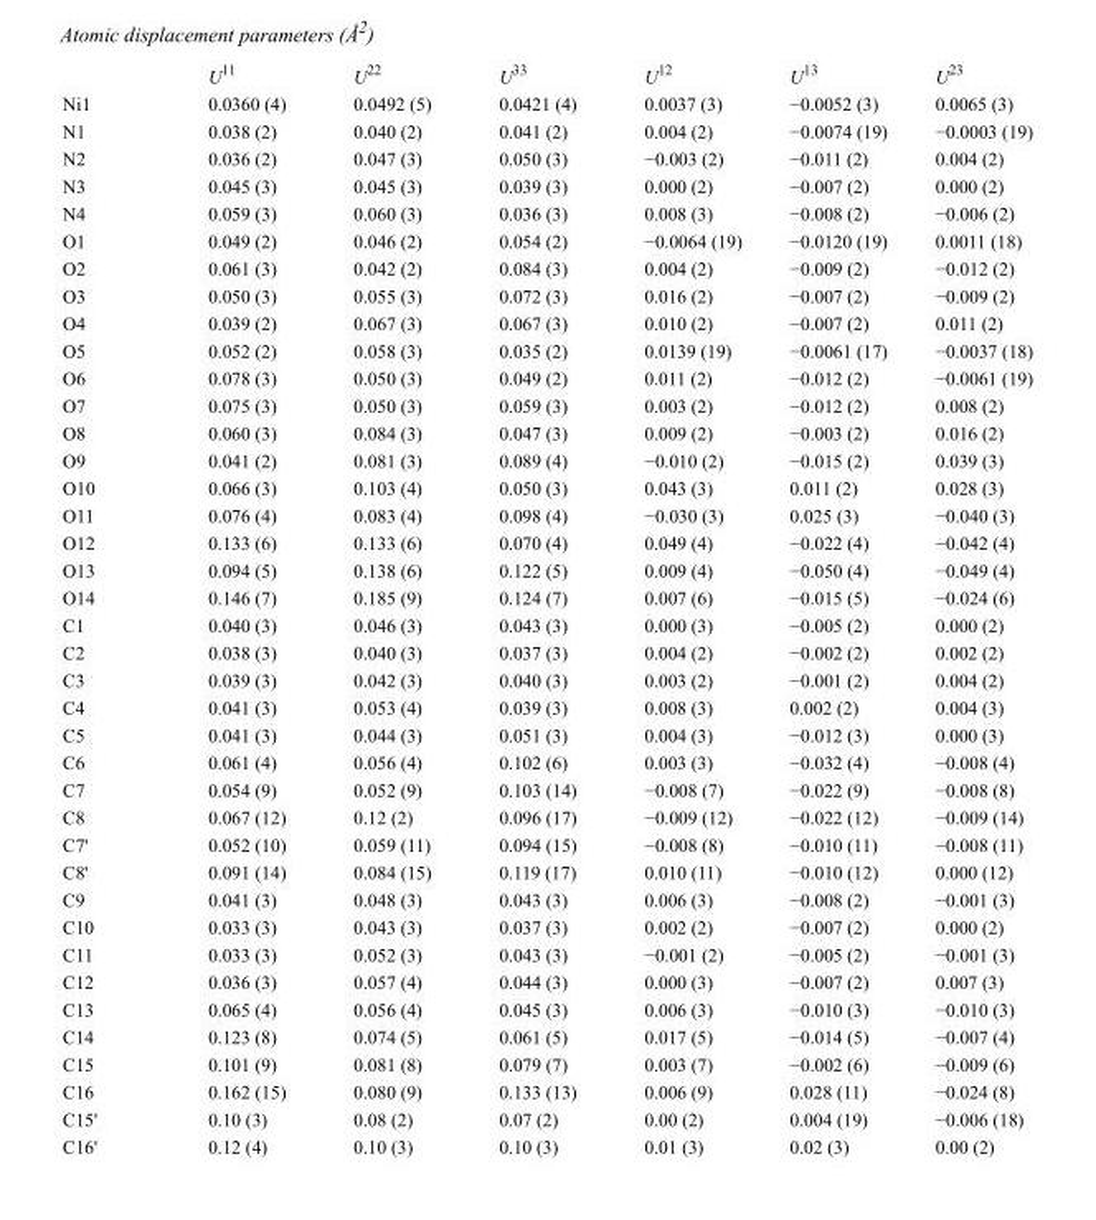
<table><thead><tr><td></td><td>U<sup>11</sup></td><td>U<sup>22</sup></td><td>U<sup>33</sup></td><td>U<sup>12</sup></td><td>U<sup>13</sup></td><td>U<sup>23</sup></td></tr></thead><tbody><tr><td>Ni1</td><td>0.0360 (4)</td><td>0.0492 (5)</td><td>0.0421 (4)</td><td>0.0037 (3)</td><td>−0.0052 (3)</td><td>0.0065 (3)</td></tr><tr><td>N1</td><td>0.038 (2)</td><td>0.040 (2)</td><td>0.041 (2)</td><td>0.004 (2)</td><td>−0.0074 (19)</td><td>−0.0003 (19)</td></tr><tr><td>N2</td><td>0.036 (2)</td><td>0.047 (3)</td><td>0.050 (3)</td><td>−0.003 (2)</td><td>−0.011 (2)</td><td>0.004 (2)</td></tr><tr><td>N3</td><td>0.045 (3)</td><td>0.045 (3)</td><td>0.039 (3)</td><td>0.000 (2)</td><td>−0.007 (2)</td><td>0.000 (2)</td></tr><tr><td>N4</td><td>0.059 (3)</td><td>0.060 (3)</td><td>0.036 (3)</td><td>0.008 (3)</td><td>−0.008 (2)</td><td>−0.006 (2)</td></tr><tr><td>O1</td><td>0.049 (2)</td><td>0.046 (2)</td><td>0.054 (2)</td><td>−0.0064 (19)</td><td>−0.0120 (19)</td><td>0.0011 (18)</td></tr><tr><td>O2</td><td>0.061 (3)</td><td>0.042 (2)</td><td>0.084 (3)</td><td>0.004 (2)</td><td>−0.009 (2)</td><td>−0.012 (2)</td></tr><tr><td>O3</td><td>0.050 (3)</td><td>0.055 (3)</td><td>0.072 (3)</td><td>0.016 (2)</td><td>−0.007 (2)</td><td>−0.009 (2)</td></tr><tr><td>O4</td><td>0.039 (2)</td><td>0.067 (3)</td><td>0.067 (3)</td><td>0.010 (2)</td><td>−0.007 (2)</td><td>0.011 (2)</td></tr><tr><td>O5</td><td>0.052 (2)</td><td>0.058 (3)</td><td>0.035 (2)</td><td>0.0139 (19)</td><td>−0.0061 (17)</td><td>−0.0037 (18)</td></tr><tr><td>O6</td><td>0.078 (3)</td><td>0.050 (3)</td><td>0.049 (2)</td><td>0.011 (2)</td><td>−0.012 (2)</td><td>−0.0061 (19)</td></tr><tr><td>O7</td><td>0.075 (3)</td><td>0.050 (3)</td><td>0.059 (3)</td><td>0.003 (2)</td><td>−0.012 (2)</td><td>0.008 (2)</td></tr><tr><td>O8</td><td>0.060 (3)</td><td>0.084 (3)</td><td>0.047 (3)</td><td>0.009 (2)</td><td>−0.003 (2)</td><td>0.016 (2)</td></tr><tr><td>O9</td><td>0.041 (2)</td><td>0.081 (3)</td><td>0.089 (4)</td><td>−0.010 (2)</td><td>−0.015 (2)</td><td>0.039 (3)</td></tr><tr><td>O10</td><td>0.066 (3)</td><td>0.103 (4)</td><td>0.050 (3)</td><td>0.043 (3)</td><td>0.011 (2)</td><td>0.028 (3)</td></tr><tr><td>O11</td><td>0.076 (4)</td><td>0.083 (4)</td><td>0.098 (4)</td><td>−0.030 (3)</td><td>0.025 (3)</td><td>−0.040 (3)</td></tr><tr><td>O12</td><td>0.133 (6)</td><td>0.133 (6)</td><td>0.070 (4)</td><td>0.049 (4)</td><td>−0.022 (4)</td><td>−0.042 (4)</td></tr><tr><td>O13</td><td>0.094 (5)</td><td>0.138 (6)</td><td>0.122 (5)</td><td>0.009 (4)</td><td>−0.050 (4)</td><td>−0.049 (4)</td></tr><tr><td>O14</td><td>0.146 (7)</td><td>0.185 (9)</td><td>0.124 (7)</td><td>0.007 (6)</td><td>−0.015 (5)</td><td>−0.024 (6)</td></tr><tr><td>C1</td><td>0.040 (3)</td><td>0.046 (3)</td><td>0.043 (3)</td><td>0.000 (3)</td><td>−0.005 (2)</td><td>0.000 (2)</td></tr><tr><td>C2</td><td>0.038 (3)</td><td>0.040 (3)</td><td>0.037 (3)</td><td>0.004 (2)</td><td>−0.002 (2)</td><td>0.002 (2)</td></tr><tr><td>C3</td><td>0.039 (3)</td><td>0.042 (3)</td><td>0.040 (3)</td><td>0.003 (2)</td><td>−0.001 (2)</td><td>0.004 (2)</td></tr><tr><td>C4</td><td>0.041 (3)</td><td>0.053 (4)</td><td>0.039 (3)</td><td>0.008 (3)</td><td>0.002 (2)</td><td>0.004 (3)</td></tr><tr><td>C5</td><td>0.041 (3)</td><td>0.044 (3)</td><td>0.051 (3)</td><td>0.004 (3)</td><td>−0.012 (3)</td><td>0.000 (3)</td></tr><tr><td>C6</td><td>0.061 (4)</td><td>0.056 (4)</td><td>0.102 (6)</td><td>0.003 (3)</td><td>−0.032 (4)</td><td>−0.008 (4)</td></tr><tr><td>C7</td><td>0.054 (9)</td><td>0.052 (9)</td><td>0.103 (14)</td><td>−0.008 (7)</td><td>−0.022 (9)</td><td>−0.008 (8)</td></tr><tr><td>C8</td><td>0.067 (12)</td><td>0.12 (2)</td><td>0.096 (17)</td><td>−0.009 (12)</td><td>−0.022 (12)</td><td>−0.009 (14)</td></tr><tr><td>C7&#x27;</td><td>0.052 (10)</td><td>0.059 (11)</td><td>0.094 (15)</td><td>−0.008 (8)</td><td>−0.010 (11)</td><td>−0.008 (11)</td></tr><tr><td>C8&#x27;</td><td>0.091 (14)</td><td>0.084 (15)</td><td>0.119 (17)</td><td>0.010 (11)</td><td>−0.010 (12)</td><td>0.000 (12)</td></tr><tr><td>C9</td><td>0.041 (3)</td><td>0.048 (3)</td><td>0.043 (3)</td><td>0.006 (3)</td><td>−0.008 (2)</td><td>−0.001 (3)</td></tr><tr><td>C10</td><td>0.033 (3)</td><td>0.043 (3)</td><td>0.037 (3)</td><td>0.002 (2)</td><td>−0.007 (2)</td><td>0.000 (2)</td></tr><tr><td>C11</td><td>0.033 (3)</td><td>0.052 (3)</td><td>0.043 (3)</td><td>−0.001 (2)</td><td>−0.005 (2)</td><td>−0.001 (3)</td></tr><tr><td>C12</td><td>0.036 (3)</td><td>0.057 (4)</td><td>0.044 (3)</td><td>0.000 (3)</td><td>−0.007 (2)</td><td>0.007 (3)</td></tr><tr><td>C13</td><td>0.065 (4)</td><td>0.056 (4)</td><td>0.045 (3)</td><td>0.006 (3)</td><td>−0.010 (3)</td><td>−0.010 (3)</td></tr><tr><td>C14</td><td>0.123 (8)</td><td>0.074 (5)</td><td>0.061 (5)</td><td>0.017 (5)</td><td>−0.014 (5)</td><td>−0.007 (4)</td></tr><tr><td>C15</td><td>0.101 (9)</td><td>0.081 (8)</td><td>0.079 (7)</td><td>0.003 (7)</td><td>−0.002 (6)</td><td>−0.009 (6)</td></tr><tr><td>C16</td><td>0.162 (15)</td><td>0.080 (9)</td><td>0.133 (13)</td><td>0.006 (9)</td><td>0.028 (11)</td><td>−0.024 (8)</td></tr><tr><td>C15&#x27;</td><td>0.10 (3)</td><td>0.08 (2)</td><td>0.07 (2)</td><td>0.00 (2)</td><td>0.004 (19)</td><td>−0.006 (18)</td></tr><tr><td>C16&#x27;</td><td>0.12 (4)</td><td>0.10 (3)</td><td>0.10 (3)</td><td>0.01 (3)</td><td>0.02 (3)</td><td>0.00 (2)</td></tr></tbody></table>